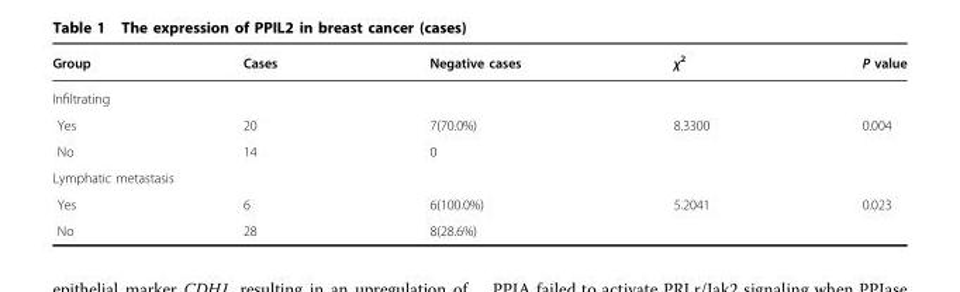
<table><thead><tr><td>Group</td><td>Cases</td><td>Negative cases</td><td>χ<sup>2</sup></td><td>P value</td></tr></thead><tbody><tr><td colspan="5">Infiltrating</td></tr><tr><td>Yes</td><td>20</td><td>7(70.0%)</td><td>8.3300</td><td>0.004</td></tr><tr><td>No</td><td>14</td><td>0</td><td></td><td></td></tr><tr><td colspan="5">Lymphatic metastasis</td></tr><tr><td>Yes</td><td>6</td><td>6(100.0%)</td><td>5.2041</td><td>0.023</td></tr><tr><td>No</td><td>28</td><td>8(28.6%)</td><td></td><td></td></tr></tbody></table>